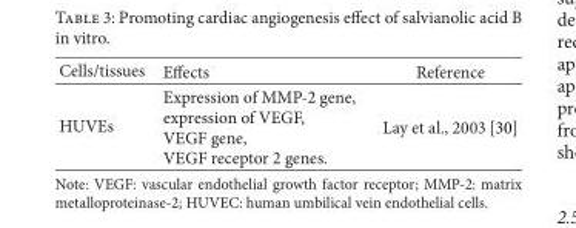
<table><thead><tr><td>Cells/tissues</td><td>Effects</td><td>Reference</td></tr></thead><tbody><tr><td>HUVEs</td><td>Expression of MMP-2 gene, expression of VEGF, VEGF gene, VEGF receptor 2 genes.</td><td>Lay et al., 2003 [30]</td></tr></tbody></table>